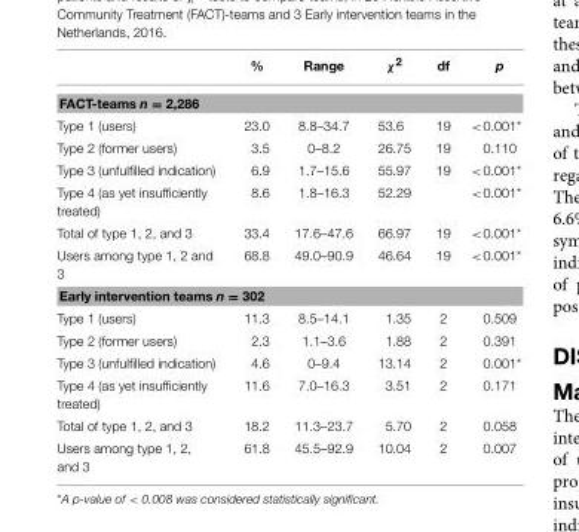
<table><thead><tr><td></td><td>%</td><td>Range</td><td>χ<sup>2</sup></td><td>df</td><td>p</td></tr></thead><tbody><tr><td colspan="6">FACT-teams n = 2,286</td></tr><tr><td>Type 1 (users)</td><td>23.0</td><td>8.8–34.7</td><td>53.6</td><td>19</td><td>&lt;0.001*</td></tr><tr><td>Type 2 (former users)</td><td>3.5</td><td>0–8.2</td><td>26.75</td><td>19</td><td>0.110</td></tr><tr><td>Type 3 (unfulfilled indication)</td><td>6.9</td><td>1.7–15.6</td><td>55.97</td><td>19</td><td>&lt;0.001*</td></tr><tr><td>Type 4 (as yet insufficiently treated)</td><td>8.6</td><td>1.8–16.3</td><td>52.29</td><td></td><td>&lt;0.001*</td></tr><tr><td>Total of type 1, 2, and 3</td><td>33.4</td><td>17.6–47.6</td><td>66.97</td><td>19</td><td>&lt;0.001*</td></tr><tr><td>Users among type 1, 2 and 3</td><td>68.8</td><td>49.0–90.9</td><td>46.64</td><td>19</td><td>&lt;0.001*</td></tr><tr><td colspan="6">Early intervention teams n = 302</td></tr><tr><td>Type 1 (users)</td><td>11.3</td><td>8.5–14.1</td><td>1.35</td><td>2</td><td>0.509</td></tr><tr><td>Type 2 (former users)</td><td>2.3</td><td>1.1–3.6</td><td>1.88</td><td>2</td><td>0.391</td></tr><tr><td>Type 3 (unfulfilled indication)</td><td>4.6</td><td>0–9.4</td><td>13.14</td><td>2</td><td>0.001*</td></tr><tr><td>Type 4 (as yet insufficiently treated)</td><td>11.6</td><td>7.0–16.3</td><td>3.51</td><td>2</td><td>0.171</td></tr><tr><td>Total of type 1, 2, and 3</td><td>18.2</td><td>11.3–23.7</td><td>5.70</td><td>2</td><td>0.058</td></tr><tr><td>Users among type 1, 2, and 3</td><td>61.8</td><td>45.5–92.9</td><td>10.04</td><td>2</td><td>0.007</td></tr></tbody></table>